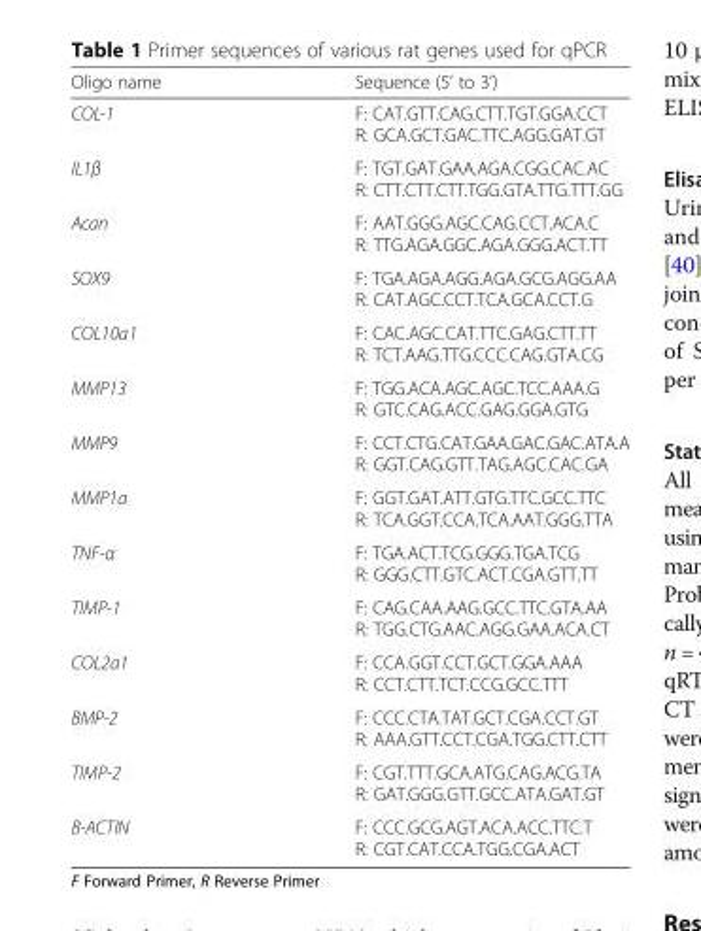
<table><thead><tr><td>Oligo name</td><td>Sequence (5’ to 3’)</td></tr></thead><tbody><tr><td>COL-1</td><td>F: CAT.GTT.CAG.CTT.TGT.GGA.CCT R: GCA.GCT.GAC.TTC.AGG.GAT.GT</td></tr><tr><td>IL1β</td><td>F: TGT.GAT.GAA.AGA.CGG.CAC.AC R: CTT.CTT.CTT.TGG.GTA.TTG.TTT.GG</td></tr><tr><td>Acan</td><td>F: AAT.GGG.AGC.CAG.CCT.ACA.C R: TTG.AGA.GGC.AGA.GGG.ACT.TT</td></tr><tr><td>SOX9</td><td>F: TGA.AGA.AGG.AGA.GCG.AGG.AA R: CAT.AGC.CCT.TCA.GCA.CCT.G</td></tr><tr><td>COL10a1</td><td>F: CAC.AGC.CAT.TTC.GAG.CTT.TT R: TCT.AAG.TTG.CCC.CAG.GTA.CG</td></tr><tr><td>MMP13</td><td>F: TGG.ACA.AGC.AGC.TCC.AAA.G R: GTC.CAG.ACC.GAG.GGA.GTG</td></tr><tr><td>MMP9</td><td>F: CCT.CTG.CAT.GAA.GAC.GAC.ATA.A R: GGT.CAG.GTT.TAG.AGC.CAC.GA</td></tr><tr><td>MMP1a</td><td>F: GGT.GAT.ATT.GTG.TTC.GCC.TTC R: TCA.GGT.CCA.TCA.AAT.GGG.TTA</td></tr><tr><td>TNF-α</td><td>F: TGA.ACT.TCG.GGG.TGA.TCG R: GGG.CTT.GTC.ACT.CGA.GTT.TT</td></tr><tr><td>TIMP-1</td><td>F: CAG.CAA.AAG.GCC.TTC.GTA.AA R: TGG.CTG.AAC.AGG.GAA.ACA.CT</td></tr><tr><td>COL2a1</td><td>F: CCA.GGT.CCT.GCT.GGA.AAA R: CCT.CTT.TCT.CCG.GCC.TTT</td></tr><tr><td>BMP-2</td><td>F: CCC.CTA.TAT.GCT.CGA.CCT.GT R: AAA.GTT.CCT.CGA.TGG.CTT.CTT</td></tr><tr><td>TIMP-2</td><td>F: CGT.TTT.GCA.ATG.CAG.ACG.TA R: GAT.GGG.GTT.GCC.ATA.GAT.GT</td></tr><tr><td>Β-ACTIN</td><td>F: CCC.GCG.AGT.ACA.ACC.TTC.T R: CGT.CAT.CCA.TGG.CGA.ACT</td></tr></tbody></table>